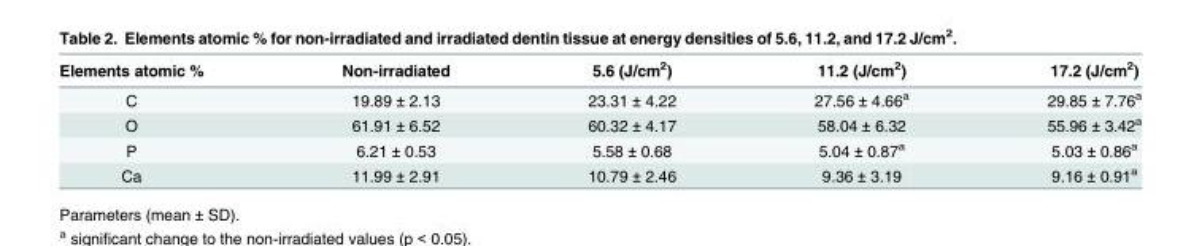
<table><thead><tr><td>Elements atomic %</td><td>Non-irradiated</td><td>5.6 (J/cm<sup>2</sup>)</td><td>11.2 (J/cm<sup>2</sup>)</td><td>17.2 (J/cm<sup>2</sup>)</td></tr></thead><tbody><tr><td>C</td><td>19.89 ± 2.13</td><td>23.31 ± 4.22</td><td>27.56 ± 4.66<sup>a</sup></td><td>29.85 ± 7.76<sup>a</sup></td></tr><tr><td>O</td><td>61.91 ± 6.52</td><td>60.32 ± 4.17</td><td>58.04 ± 6.32</td><td>55.96 ± 3.42<sup>a</sup></td></tr><tr><td>P</td><td>6.21 ± 0.53</td><td>5.58 ± 0.68</td><td>5.04 ± 0.87<sup>a</sup></td><td>5.03 ± 0.86<sup>a</sup></td></tr><tr><td>Ca</td><td>11.99 ± 2.91</td><td>10.79 ± 2.46</td><td>9.36 ± 3.19</td><td>9.16 ± 0.91<sup>a</sup></td></tr></tbody></table>